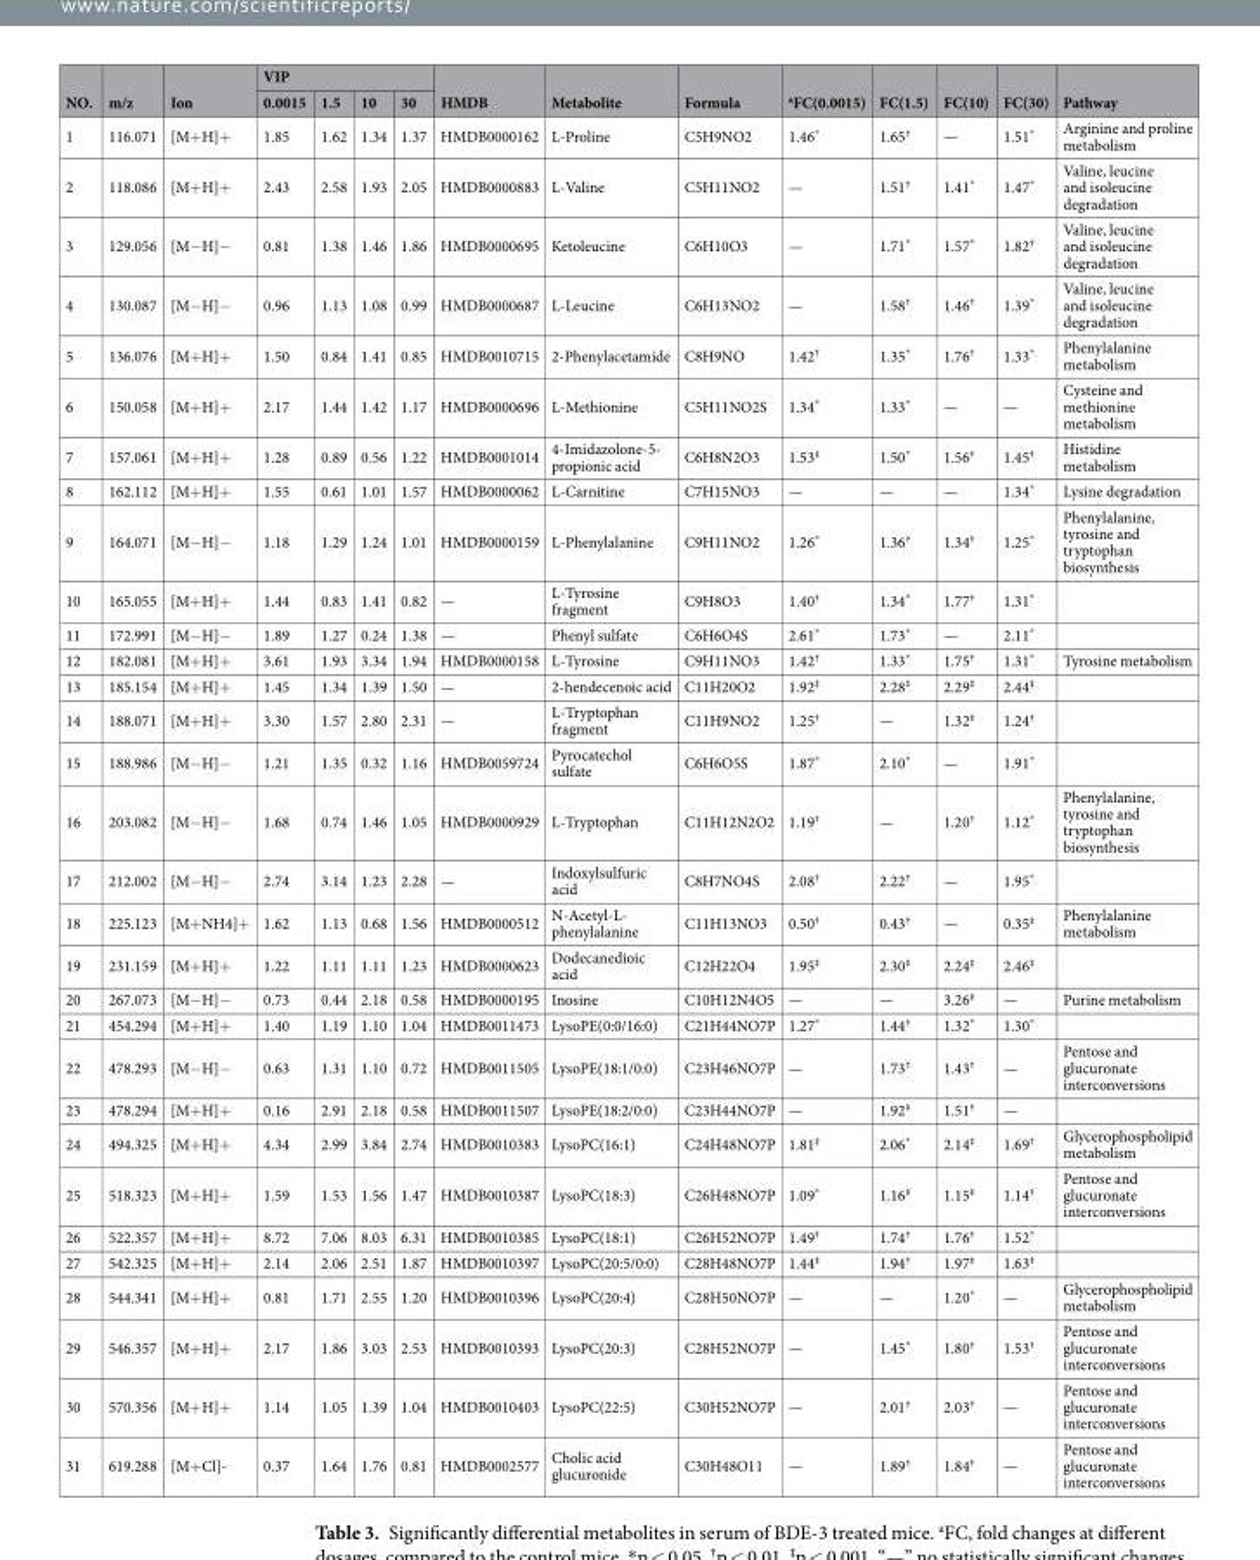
<table><thead><tr><td rowspan="2">NO.</td><td rowspan="2">m/z</td><td rowspan="2">Ion</td><td colspan="4">VIP</td><td rowspan="2">HMDB</td><td rowspan="2">Metabolite</td><td rowspan="2">Formula</td><td rowspan="2"><sup>a</sup>FC(0.0015)</td><td rowspan="2">FC(1.5)</td><td rowspan="2">FC(10)</td><td rowspan="2">FC(30)</td><td rowspan="2">Pathway</td></tr><tr><td>0.0015</td><td>1.5</td><td>10</td><td>30</td></tr></thead><tbody><tr><td>1</td><td>116.071</td><td>[M+H]+</td><td>1.85</td><td>1.62</td><td>1.34</td><td>1.37</td><td>HMDB0000162</td><td>L-Proline</td><td>C5H9NO2</td><td>1.46*</td><td>1.65<sup>†</sup></td><td>—</td><td>1.51*</td><td>Arginine and proline metabolism</td></tr><tr><td>2</td><td>118.086</td><td>[M+H]+</td><td>2.43</td><td>2.58</td><td>1.93</td><td>2.05</td><td>HMDB0000883</td><td>L-Valine</td><td>C5H11NO2</td><td>—</td><td>1.51<sup>†</sup></td><td>1.41*</td><td>1.47*</td><td>Valine, leucine and isoleucine degradation</td></tr><tr><td>3</td><td>129.056</td><td>[M−H]−</td><td>0.81</td><td>1.38</td><td>1.46</td><td>1.86</td><td>HMDB0000695</td><td>Ketoleucine</td><td>C6H10O3</td><td>—</td><td>1.71*</td><td>1.57*</td><td>1.82<sup>†</sup></td><td>Valine, leucine and isoleucine degradation</td></tr><tr><td>4</td><td>130.087</td><td>[M−H]−</td><td>0.96</td><td>1.13</td><td>1.08</td><td>0.99</td><td>HMDB0000687</td><td>L-Leucine</td><td>C6H13NO2</td><td>—</td><td>1.58<sup>†</sup></td><td>1.46<sup>†</sup></td><td>1.39*</td><td>Valine, leucine and isoleucine degradation</td></tr><tr><td>5</td><td>136.076</td><td>[M+H]+</td><td>1.50</td><td>0.84</td><td>1.41</td><td>0.85</td><td>HMDB0010715</td><td>2-Phenylacetamide</td><td>C8H9NO</td><td>1.42<sup>†</sup></td><td>1.35*</td><td>1.76<sup>†</sup></td><td>1.33*</td><td>Phenylalanine metabolism</td></tr><tr><td>6</td><td>150.058</td><td>[M+H]+</td><td>2.17</td><td>1.44</td><td>1.42</td><td>1.17</td><td>HMDB0000696</td><td>L-Methionine</td><td>C5H11NO2S</td><td>1.34*</td><td>1.33*</td><td>—</td><td>—</td><td>Cysteine and methionine metabolism</td></tr><tr><td>7</td><td>157.061</td><td>[M+H]+</td><td>1.28</td><td>0.89</td><td>0.56</td><td>1.22</td><td>HMDB0001014</td><td>4-Imidazolone-5- propionic acid</td><td>C6H8N2O3</td><td>1.53<sup>‡</sup></td><td>1.50*</td><td>1.56<sup>†</sup></td><td>1.45<sup>†</sup></td><td>Histidine metabolism</td></tr><tr><td>8</td><td>162.112</td><td>[M+H]+</td><td>1.55</td><td>0.61</td><td>1.01</td><td>1.57</td><td>HMDB0000062</td><td>L-Carnitine</td><td>C7H15NO3</td><td>—</td><td>—</td><td>—</td><td>1.34*</td><td>Lysine degradation</td></tr><tr><td>9</td><td>164.071</td><td>[M−H]−</td><td>1.18</td><td>1.29</td><td>1.24</td><td>1.01</td><td>HMDB0000159</td><td>L-Phenylalanine</td><td>C9H11NO2</td><td>1.26*</td><td>1.36<sup>†</sup></td><td>1.34<sup>†</sup></td><td>1.25*</td><td>Phenylalanine, tyrosine and tryptophan biosynthesis</td></tr><tr><td>10</td><td>165.055</td><td>[M+H]+</td><td>1.44</td><td>0.83</td><td>1.41</td><td>0.82</td><td>—</td><td>L-Tyrosine fragment</td><td>C9H8O3</td><td>1.40<sup>†</sup></td><td>1.34*</td><td>1.77<sup>†</sup></td><td>1.31*</td><td></td></tr><tr><td>11</td><td>172.991</td><td>[M−H]−</td><td>1.89</td><td>1.27</td><td>0.24</td><td>1.38</td><td>—</td><td>Phenyl sulfate</td><td>C6H6O4S</td><td>2.61*</td><td>1.73*</td><td>—</td><td>2.11*</td><td></td></tr><tr><td>12</td><td>182.081</td><td>[M+H]+</td><td>3.61</td><td>1.93</td><td>3.34</td><td>1.94</td><td>HMDB0000158</td><td>L-Tyrosine</td><td>C9H11NO3</td><td>1.42<sup>†</sup></td><td>1.33*</td><td>1.75<sup>†</sup></td><td>1.31*</td><td>Tyrosine metabolism</td></tr><tr><td>13</td><td>185.154</td><td>[M+H]+</td><td>1.45</td><td>1.34</td><td>1.39</td><td>1.50</td><td>—</td><td>2-hendecenoic acid</td><td>C11H20O2</td><td>1.92<sup>‡</sup></td><td>2.28<sup>‡</sup></td><td>2.29<sup>‡</sup></td><td>2.44<sup>‡</sup></td><td></td></tr><tr><td>14</td><td>188.071</td><td>[M+H]+</td><td>3.30</td><td>1.57</td><td>2.80</td><td>2.31</td><td>—</td><td>L-Tryptophan fragment</td><td>C11H9NO2</td><td>1.25<sup>†</sup></td><td>—</td><td>1.32<sup>‡</sup></td><td>1.24<sup>†</sup></td><td></td></tr><tr><td>15</td><td>188.986</td><td>[M−H]−</td><td>1.21</td><td>1.35</td><td>0.32</td><td>1.16</td><td>HMDB0059724</td><td>Pyrocatechol sulfate</td><td>C6H6O5S</td><td>1.87*</td><td>2.10*</td><td>—</td><td>1.91*</td><td></td></tr><tr><td>16</td><td>203.082</td><td>[M−H]−</td><td>1.68</td><td>0.74</td><td>1.46</td><td>1.05</td><td>HMDB0000929</td><td>L-Tryptophan</td><td>C11H12N2O2</td><td>1.19<sup>†</sup></td><td>—</td><td>1.20<sup>†</sup></td><td>1.12*</td><td>Phenylalanine, tyrosine and tryptophan biosynthesis</td></tr><tr><td>17</td><td>212.002</td><td>[M−H]−</td><td>2.74</td><td>3.14</td><td>1.23</td><td>2.28</td><td>—</td><td>Indoxylsulfuric acid</td><td>C8H7NO4S</td><td>2.08<sup>†</sup></td><td>2.22<sup>†</sup></td><td>—</td><td>1.95*</td><td></td></tr><tr><td>18</td><td>225.123</td><td>[M+NH4]+</td><td>1.62</td><td>1.13</td><td>0.68</td><td>1.56</td><td>HMDB0000512</td><td>N-Acetyl-L- phenylalanine</td><td>C11H13NO3</td><td>0.50<sup>†</sup></td><td>0.43<sup>†</sup></td><td>—</td><td>0.35<sup>‡</sup></td><td>Phenylalanine metabolism</td></tr><tr><td>19</td><td>231.159</td><td>[M+H]+</td><td>1.22</td><td>1.11</td><td>1.11</td><td>1.23</td><td>HMDB0000623</td><td>Dodecanedioic acid</td><td>C12H22O4</td><td>1.95<sup>‡</sup></td><td>2.30<sup>‡</sup></td><td>2.24<sup>‡</sup></td><td>2.46<sup>‡</sup></td><td></td></tr><tr><td>20</td><td>267.073</td><td>[M−H]−</td><td>0.73</td><td>0.44</td><td>2.18</td><td>0.58</td><td>HMDB0000195</td><td>Inosine</td><td>C10H12N4O5</td><td>—</td><td>—</td><td>3.26<sup>‡</sup></td><td>—</td><td>Purine metabolism</td></tr><tr><td>21</td><td>454.294</td><td>[M+H]+</td><td>1.40</td><td>1.19</td><td>1.10</td><td>1.04</td><td>HMDB0011473</td><td>LysoPE(0:0/16:0)</td><td>C21H44NO7P</td><td>1.27*</td><td>1.44<sup>†</sup></td><td>1.32*</td><td>1.30*</td><td></td></tr><tr><td>22</td><td>478.293</td><td>[M−H]−</td><td>0.63</td><td>1.31</td><td>1.10</td><td>0.72</td><td>HMDB0011505</td><td>LysoPE(18:1/0:0)</td><td>C23H46NO7P</td><td>—</td><td>1.73<sup>†</sup></td><td>1.43<sup>†</sup></td><td>—</td><td>Pentose and glucuronate interconversions</td></tr><tr><td>23</td><td>478.294</td><td>[M+H]+</td><td>0.16</td><td>2.91</td><td>2.18</td><td>0.58</td><td>HMDB0011507</td><td>LysoPE(18:2/0:0)</td><td>C23H44NO7P</td><td>—</td><td>1.92<sup>‡</sup></td><td>1.51<sup>†</sup></td><td>—</td><td></td></tr><tr><td>24</td><td>494.325</td><td>[M+H]+</td><td>4.34</td><td>2.99</td><td>3.84</td><td>2.74</td><td>HMDB0010383</td><td>LysoPC(16:1)</td><td>C24H48NO7P</td><td>1.81<sup>‡</sup></td><td>2.06*</td><td>2.14<sup>‡</sup></td><td>1.69<sup>†</sup></td><td>Glycerophospholipid metabolism</td></tr><tr><td>25</td><td>518.323</td><td>[M+H]+</td><td>1.59</td><td>1.53</td><td>1.56</td><td>1.47</td><td>HMDB0010387</td><td>LysoPC(18:3)</td><td>C26H48NO7P</td><td>1.09*</td><td>1.16<sup>‡</sup></td><td>1.15<sup>‡</sup></td><td>1.14<sup>†</sup></td><td>Pentose and glucuronate interconversions</td></tr><tr><td>26</td><td>522.357</td><td>[M+H]+</td><td>8.72</td><td>7.06</td><td>8.03</td><td>6.31</td><td>HMDB0010385</td><td>LysoPC(18:1)</td><td>C26H52NO7P</td><td>1.49<sup>†</sup></td><td>1.74<sup>†</sup></td><td>1.76<sup>†</sup></td><td>1.52*</td><td></td></tr><tr><td>27</td><td>542.325</td><td>[M+H]+</td><td>2.14</td><td>2.06</td><td>2.51</td><td>1.87</td><td>HMDB0010397</td><td>LysoPC(20:5/0:0)</td><td>C28H48NO7P</td><td>1.44<sup>‡</sup></td><td>1.94<sup>†</sup></td><td>1.97<sup>‡</sup></td><td>1.63<sup>‡</sup></td><td></td></tr><tr><td>28</td><td>544.341</td><td>[M+H]+</td><td>0.81</td><td>1.71</td><td>2.55</td><td>1.20</td><td>HMDB0010396</td><td>LysoPC(20:4)</td><td>C28H50NO7P</td><td>—</td><td>—</td><td>1.20*</td><td>—</td><td>Glycerophospholipid metabolism</td></tr><tr><td>29</td><td>546.357</td><td>[M+H]+</td><td>2.17</td><td>1.86</td><td>3.03</td><td>2.53</td><td>HMDB0010393</td><td>LysoPC(20:3)</td><td>C28H52NO7P</td><td>—</td><td>1.45*</td><td>1.80<sup>†</sup></td><td>1.53<sup>†</sup></td><td>Pentose and glucuronate interconversions</td></tr><tr><td>30</td><td>570.356</td><td>[M+H]+</td><td>1.14</td><td>1.05</td><td>1.39</td><td>1.04</td><td>HMDB0010403</td><td>LysoPC(22:5)</td><td>C30H52NO7P</td><td>—</td><td>2.01<sup>†</sup></td><td>2.03<sup>†</sup></td><td>—</td><td>Pentose and glucuronate interconversions</td></tr><tr><td>31</td><td>619.288</td><td>[M+Cl]-</td><td>0.37</td><td>1.64</td><td>1.76</td><td>0.81</td><td>HMDB0002577</td><td>Cholic acid glucuronide</td><td>C30H48O11</td><td>—</td><td>1.89<sup>†</sup></td><td>1.84<sup>†</sup></td><td>—</td><td>Pentose and glucuronate interconversions</td></tr></tbody></table>